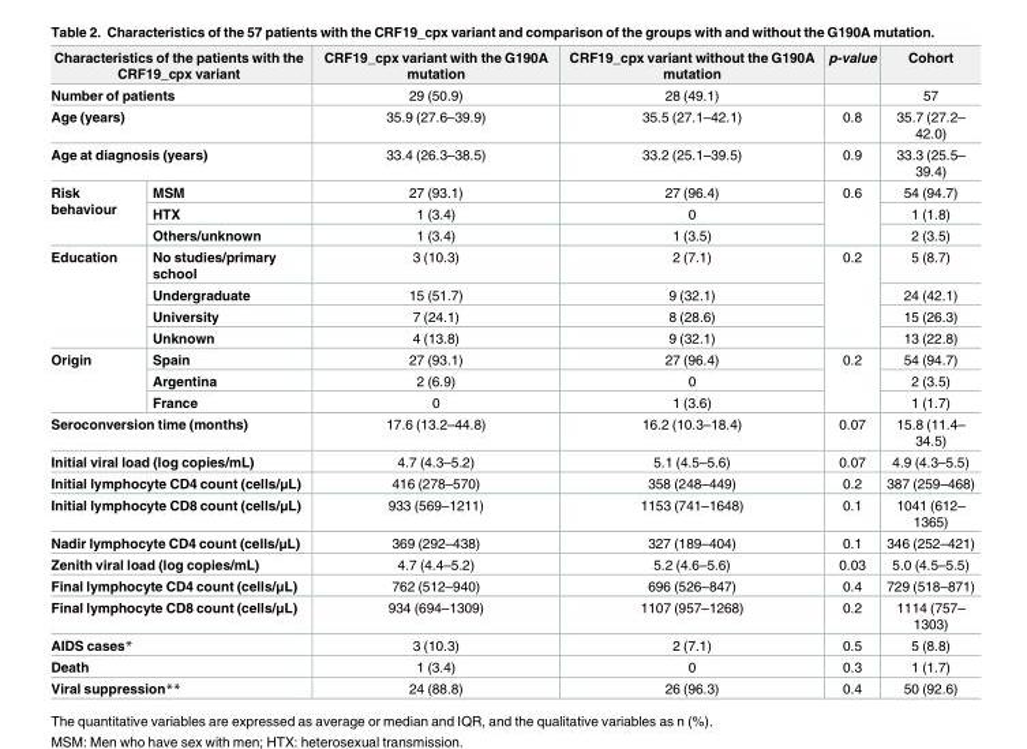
<table><thead><tr><td colspan="2">Characteristics of the patients with the CRF19_cpx variant</td><td>CRF19_cpx variant with the G190A mutation</td><td>CRF19_cpx variant without the G190A mutation</td><td>p-value</td><td>Cohort</td></tr></thead><tbody><tr><td colspan="2">Number of patients</td><td>29 (50.9)</td><td>28 (49.1)</td><td></td><td>57</td></tr><tr><td colspan="2">Age (years)</td><td>35.9 (27.6–39.9)</td><td>35.5 (27.1–42.1)</td><td>0.8</td><td>35.7 (27.2– 42.0)</td></tr><tr><td colspan="2">Age at diagnosis (years)</td><td>33.4 (26.3–38.5)</td><td>33.2 (25.1–39.5)</td><td>0.9</td><td>33.3 (25.5– 39.4)</td></tr><tr><td rowspan="3">Risk behaviour</td><td>MSM</td><td>27 (93.1)</td><td>27 (96.4)</td><td rowspan="3">0.6</td><td>54 (94.7)</td></tr><tr><td>HTX</td><td>1 (3.4)</td><td>0</td><td>1 (1.8)</td></tr><tr><td>Others/unknown</td><td>1 (3.4)</td><td>1 (3.5)</td><td>2 (3.5)</td></tr><tr><td rowspan="4">Education</td><td>No studies/primary school</td><td>3 (10.3)</td><td>2 (7.1)</td><td rowspan="4">0.2</td><td>5 (8.7)</td></tr><tr><td>Undergraduate</td><td>15 (51.7)</td><td>9 (32.1)</td><td>24 (42.1)</td></tr><tr><td>University</td><td>7 (24.1)</td><td>8 (28.6)</td><td>15 (26.3)</td></tr><tr><td>Unknown</td><td>4 (13.8)</td><td>9 (32.1)</td><td>13 (22.8)</td></tr><tr><td rowspan="3">Origin</td><td>Spain</td><td>27 (93.1)</td><td>27 (96.4)</td><td rowspan="3">0.2</td><td>54 (94.7)</td></tr><tr><td>Argentina</td><td>2 (6.9)</td><td>0</td><td>2 (3.5)</td></tr><tr><td>France</td><td>0</td><td>1 (3.6)</td><td>1 (1.7)</td></tr><tr><td colspan="2">Seroconversion time (months)</td><td>17.6 (13.2–44.8)</td><td>16.2 (10.3–18.4)</td><td>0.07</td><td>15.8 (11.4– 34.5)</td></tr><tr><td colspan="2">Initial viral load (log copies/mL)</td><td>4.7 (4.3–5.2)</td><td>5.1 (4.5–5.6)</td><td>0.07</td><td>4.9 (4.3–5.5)</td></tr><tr><td colspan="2">Initial lymphocyte CD4 count (cells/μL)</td><td>416 (278–570)</td><td>358 (248–449)</td><td>0.2</td><td>387 (259–468)</td></tr><tr><td colspan="2">Initial lymphocyte CD8 count (cells/μL)</td><td>933 (569–1211)</td><td>1153 (741–1648)</td><td>0.1</td><td>1041 (612– 1365)</td></tr><tr><td colspan="2">Nadir lymphocyte CD4 count (cells/μL)</td><td>369 (292–438)</td><td>327 (189–404)</td><td>0.1</td><td>346 (252–421)</td></tr><tr><td colspan="2">Zenith viral load (log copies/mL)</td><td>4.7 (4.4–5.2)</td><td>5.2 (4.6–5.6)</td><td>0.03</td><td>5.0 (4.5–5.5)</td></tr><tr><td colspan="2">Final lymphocyte CD4 count (cells/μL)</td><td>762 (512–940)</td><td>696 (526–847)</td><td>0.4</td><td>729 (518–871)</td></tr><tr><td colspan="2">Final lymphocyte CD8 count (cells/μL)</td><td>934 (694–1309)</td><td>1107 (957–1268)</td><td>0.2</td><td>1114 (757– 1303)</td></tr><tr><td colspan="2">AIDS cases*</td><td>3 (10.3)</td><td>2 (7.1)</td><td>0.5</td><td>5 (8.8)</td></tr><tr><td colspan="2">Death</td><td>1 (3.4)</td><td>0</td><td>0.3</td><td>1 (1.7)</td></tr><tr><td colspan="2">Viral suppression**</td><td>24 (88.8)</td><td>26 (96.3)</td><td>0.4</td><td>50 (92.6)</td></tr></tbody></table>